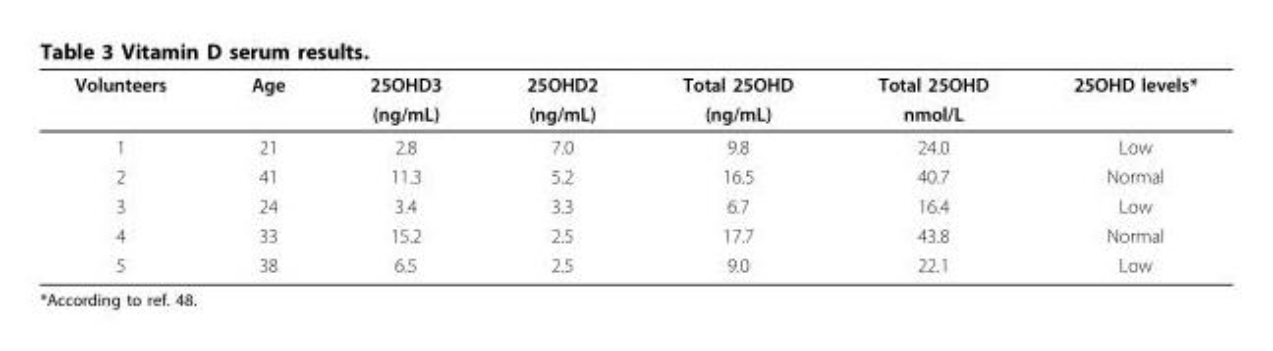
<table><thead><tr><td rowspan="2">Volunteers</td><td rowspan="2">Age</td><td rowspan="2">25OHD3 (ng/mL)</td><td rowspan="2">25OHD2 (ng/mL)</td><td rowspan="2">Total 25OHD (ng/mL)</td><td rowspan="2">Total 25OHD nmol/L</td><td rowspan="2">25OHD levels*</td></tr><tr></tr></thead><tbody><tr><td>1</td><td>21</td><td>2.8</td><td>7.0</td><td>9.8</td><td>24.0</td><td>Low</td></tr><tr><td>2</td><td>41</td><td>11.3</td><td>5.2</td><td>16.5</td><td>40.7</td><td>Normal</td></tr><tr><td>3</td><td>24</td><td>3.4</td><td>3.3</td><td>6.7</td><td>16.4</td><td>Low</td></tr><tr><td>4</td><td>33</td><td>15.2</td><td>2.5</td><td>17.7</td><td>43.8</td><td>Normal</td></tr><tr><td>5</td><td>38</td><td>6.5</td><td>2.5</td><td>9.0</td><td>22.1</td><td>Low</td></tr></tbody></table>